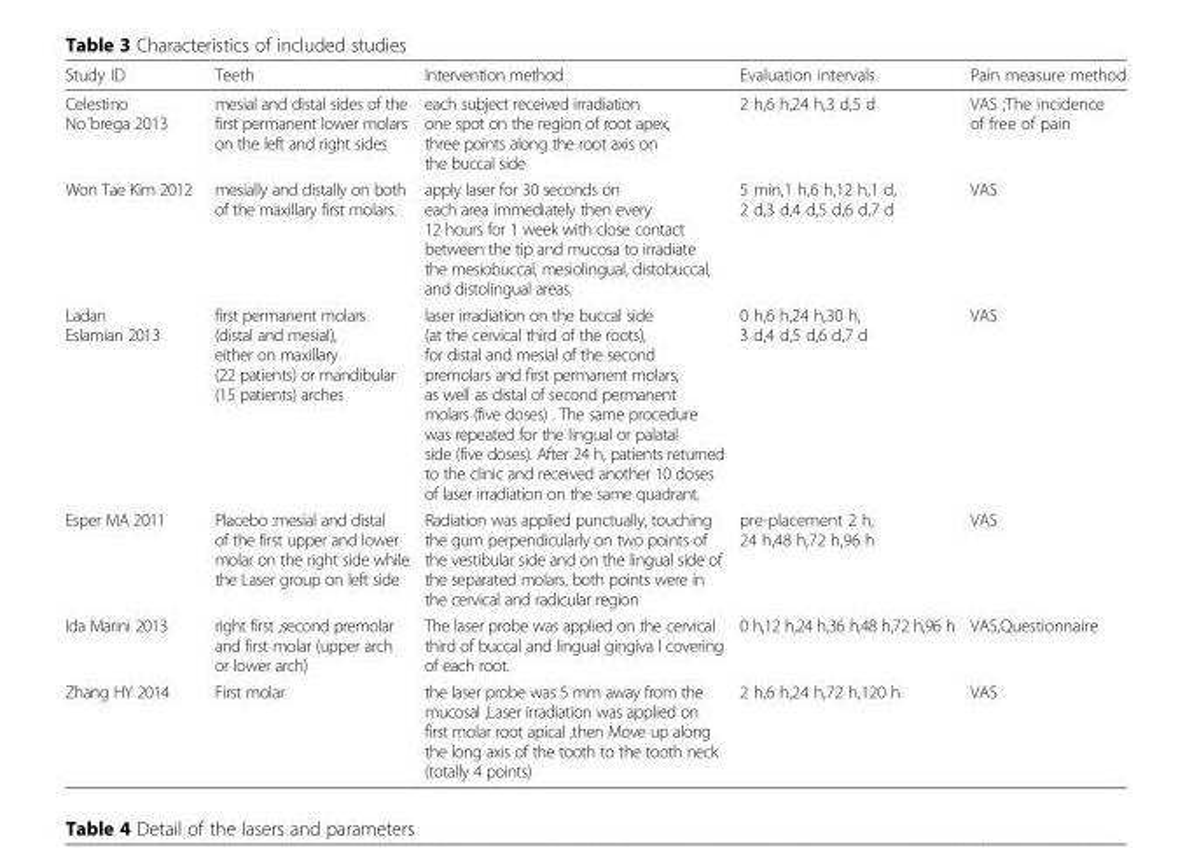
<table><thead><tr><td>Study ID</td><td>Teeth</td><td>Intervention method</td><td>Evaluation intervals</td><td>Pain measure method</td></tr></thead><tbody><tr><td>Celestino No´brega 2013</td><td>mesial and distal sides of the first permanent lower molars on the left and right sides</td><td>each subject received irradiation one spot on the region of root apex, three points along the root axis on the buccal side</td><td>2 h,6 h,24 h,3 d,5 d</td><td>VAS ;The incidence of free of pain</td></tr><tr><td>Won Tae Kim 2012</td><td>mesially and distally on both of the maxillary first molars.</td><td>apply laser for 30 seconds on each area immediately then every 12 hours for 1 week with close contact between the tip and mucosa to irradiate the mesiobuccal, mesiolingual, distobuccal, and distolingual areas.</td><td>5 min,1 h,6 h,12 h,1 d, 2 d,3 d,4 d,5 d,6 d,7 d</td><td>VAS</td></tr><tr><td>Ladan Eslamian 2013</td><td>first permanent molars (distal and mesial), either on maxillary (22 patients) or mandibular (15 patients) arches</td><td>laser irradiation on the buccal side (at the cervical third of the roots), for distal and mesial of the second premolars and first permanent molars, as well as distal of second permanent molars (five doses) . The same procedure was repeated for the lingual or palatal side (five doses). After 24 h, patients returned to the clinic and received another 10 doses of laser irradiation on the same quadrant.</td><td>0 h,6 h,24 h,30 h, 3 d,4 d,5 d,6 d,7 d</td><td>VAS</td></tr><tr><td>Esper MA 2011</td><td>Placebo :mesial and distal of the first upper and lower molar on the right side while the Laser group on left side</td><td>Radiation was applied punctually, touching the gum perpendicularly on two points of the vestibular side and on the lingual side of the separated molars, both points were in the cervical and radicular region</td><td>pre-placement 2 h, 24 h,48 h,72 h,96 h</td><td>VAS</td></tr><tr><td>Ida Marini 2013</td><td>right first ,second premolar and first molar (upper arch or lower arch)</td><td>The laser probe was applied on the cervical third of buccal and lingual gingiva l covering of each root.</td><td>0 h,12 h,24 h,36 h,48 h,72 h,96 h</td><td>VAS,Questionnaire</td></tr><tr><td>Zhang HY 2014</td><td>First molar</td><td>the laser probe was 5 mm away from the mucosal ,Laser irradiation was applied on first molar root apical ,then Move up along the long axis of the tooth to the tooth neck (totally 4 points)</td><td>2 h,6 h,24 h,72 h,120 h</td><td>VAS</td></tr></tbody></table>